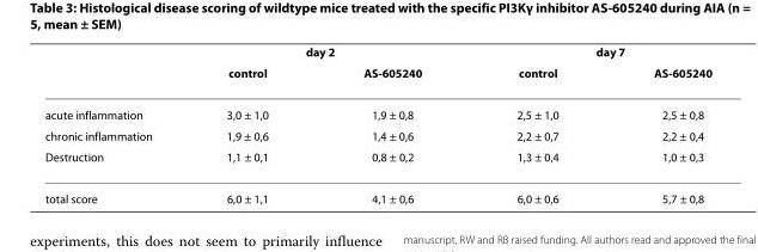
<table><thead><tr><td rowspan="2"></td><td colspan="2">day 2</td><td colspan="2">day 7</td></tr><tr><td>control</td><td>AS-605240</td><td>control</td><td>AS-605240</td></tr></thead><tbody><tr><td>acute inflammation</td><td>3,0 ± 1,0</td><td>1,9 ± 0,8</td><td>2,5 ± 1,0</td><td>2,5 ± 0,8</td></tr><tr><td>chronic inflammation</td><td>1,9 ± 0,6</td><td>1,4 ± 0,6</td><td>2,2 ± 0,7</td><td>2,2 ± 0,4</td></tr><tr><td>Destruction</td><td>1,1 ± 0,1</td><td>0,8 ± 0,2</td><td>1,3 ± 0,4</td><td>1,0 ± 0,3</td></tr><tr><td>total score</td><td>6,0 ± 1,1</td><td>4,1 ± 0,6</td><td>6,0 ± 0,6</td><td>5,7 ± 0,8</td></tr></tbody></table>